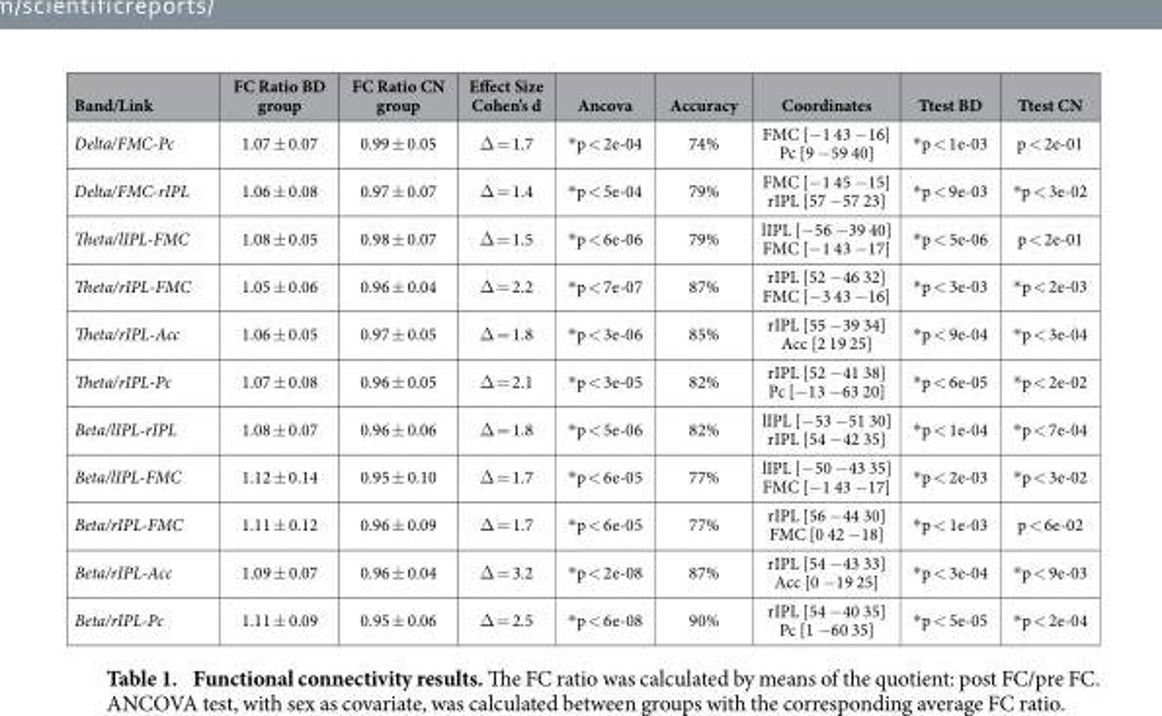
<table><thead><tr><td>Band/Link</td><td>FC Ratio BD group</td><td>FC Ratio CN group</td><td>Effect Size Cohen’s d</td><td>Ancova</td><td>Accuracy</td><td>Coordinates</td><td>Ttest BD</td><td>Ttest CN</td></tr></thead><tbody><tr><td>Delta/FMC-Pc</td><td>1.07 ± 0.07</td><td>0.99 ± 0.05</td><td>Δ = 1.7</td><td>* p &lt; 2e-04</td><td>74%</td><td>FMC [− 1 43 − 16] Pc [9 − 59 40]</td><td>* p &lt; 1e-03</td><td>p &lt; 2e-01</td></tr><tr><td>Delta/FMC-rIPL</td><td>1.06 ± 0.08</td><td>0.97 ± 0.07</td><td>Δ = 1.4</td><td>* p &lt; 5e-04</td><td>79%</td><td>FMC [− 1 45 − 15] rIPL [57 − 57 23]</td><td>* p &lt; 9e-03</td><td>* p &lt; 3e-02</td></tr><tr><td>Theta/lIPL-FMC</td><td>1.08 ± 0.05</td><td>0.98 ± 0.07</td><td>Δ = 1.5</td><td>* p &lt; 6e-06</td><td>79%</td><td>lIPL [− 56 − 39 40] FMC [− 1 43 − 17]</td><td>* p &lt; 5e-06</td><td>p &lt; 2e-01</td></tr><tr><td>Theta/rIPL-FMC</td><td>1.05 ± 0.06</td><td>0.96 ± 0.04</td><td>Δ = 2.2</td><td>* p &lt; 7e-07</td><td>87%</td><td>rIPL [52 − 46 32] FMC [− 3 43 − 16]</td><td>* p &lt; 3e-03</td><td>* p &lt; 2e-03</td></tr><tr><td>Theta/rIPL-Acc</td><td>1.06 ± 0.05</td><td>0.97 ± 0.05</td><td>Δ = 1.8</td><td>* p &lt; 3e-06</td><td>85%</td><td>rIPL [55 − 39 34] Acc [2 19 25]</td><td>* p &lt; 9e-04</td><td>* p &lt; 3e-04</td></tr><tr><td>Theta/rIPL-Pc</td><td>1.07 ± 0.08</td><td>0.96 ± 0.05</td><td>Δ = 2.1</td><td>* p &lt; 3e-05</td><td>82%</td><td>rIPL [52 − 41 38] Pc [− 13 − 63 20]</td><td>* p &lt; 6e-05</td><td>* p &lt; 2e-02</td></tr><tr><td>Beta/lIPL-rIPL</td><td>1.08 ± 0.07</td><td>0.96 ± 0.06</td><td>Δ = 1.8</td><td>* p &lt; 5e-06</td><td>82%</td><td>lIPL [− 53 − 51 30] rIPL [54 − 42 35]</td><td>* p &lt; 1e-04</td><td>* p &lt; 7e-04</td></tr><tr><td>Beta/lIPL-FMC</td><td>1.12 ± 0.14</td><td>0.95 ± 0.10</td><td>Δ = 1.7</td><td>* p &lt; 6e-05</td><td>77%</td><td>lIPL [− 50 − 43 35] FMC [− 1 43 − 17]</td><td>* p &lt; 2e-03</td><td>* p &lt; 3e-02</td></tr><tr><td>Beta/rIPL-FMC</td><td>1.11 ± 0.12</td><td>0.96 ± 0.09</td><td>Δ = 1.7</td><td>* p &lt; 6e-05</td><td>77%</td><td>rIPL [56 − 44 30] FMC [0 42 − 18]</td><td>* p &lt; 1e-03</td><td>p &lt; 6e-02</td></tr><tr><td>Beta/rIPL-Acc</td><td>1.09 ± 0.07</td><td>0.96 ± 0.04</td><td>Δ = 3.2</td><td>* p &lt; 2e-08</td><td>87%</td><td>rIPL [54 − 43 33] Acc [0 − 19 25]</td><td>* p &lt; 3e-04</td><td>* p &lt; 9e-03</td></tr><tr><td>Beta/rIPL-Pc</td><td>1.11 ± 0.09</td><td>0.95 ± 0.06</td><td>Δ = 2.5</td><td>* p &lt; 6e-08</td><td>90%</td><td>rIPL [54 − 40 35] Pc [1 − 60 35]</td><td>* p &lt; 5e-05</td><td>* p &lt; 2e-04</td></tr></tbody></table>